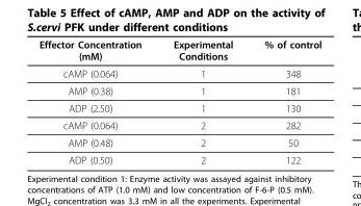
<table><thead><tr><td>Effector Concentration (mM)</td><td>Experimental Conditions</td><td>% of control</td></tr></thead><tbody><tr><td>cAMP (0.064)</td><td>1</td><td>348</td></tr><tr><td>AMP (0.38)</td><td>1</td><td>181</td></tr><tr><td>ADP (2.50)</td><td>1</td><td>130</td></tr><tr><td>cAMP (0.064)</td><td>2</td><td>282</td></tr><tr><td>AMP (0.48)</td><td>2</td><td>50</td></tr><tr><td>ADP (0.50)</td><td>2</td><td>122</td></tr></tbody></table>